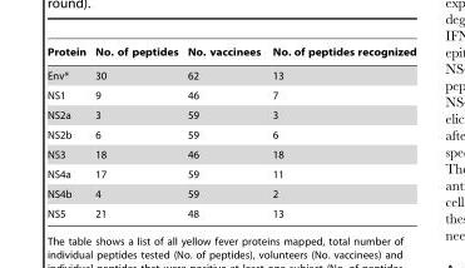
<table><thead><tr><td>Protein</td><td>No. of peptides</td><td>No. vaccinees</td><td>No. of peptides recognized</td></tr></thead><tbody><tr><td>Env*</td><td>30</td><td>62</td><td>13</td></tr><tr><td>NS1</td><td>9</td><td>46</td><td>7</td></tr><tr><td>NS2a</td><td>3</td><td>59</td><td>3</td></tr><tr><td>NS2b</td><td>6</td><td>59</td><td>6</td></tr><tr><td>NS3</td><td>18</td><td>46</td><td>18</td></tr><tr><td>NS4a</td><td>17</td><td>59</td><td>11</td></tr><tr><td>NS4b</td><td>4</td><td>59</td><td>2</td></tr><tr><td>NS5</td><td>21</td><td>48</td><td>13</td></tr></tbody></table>